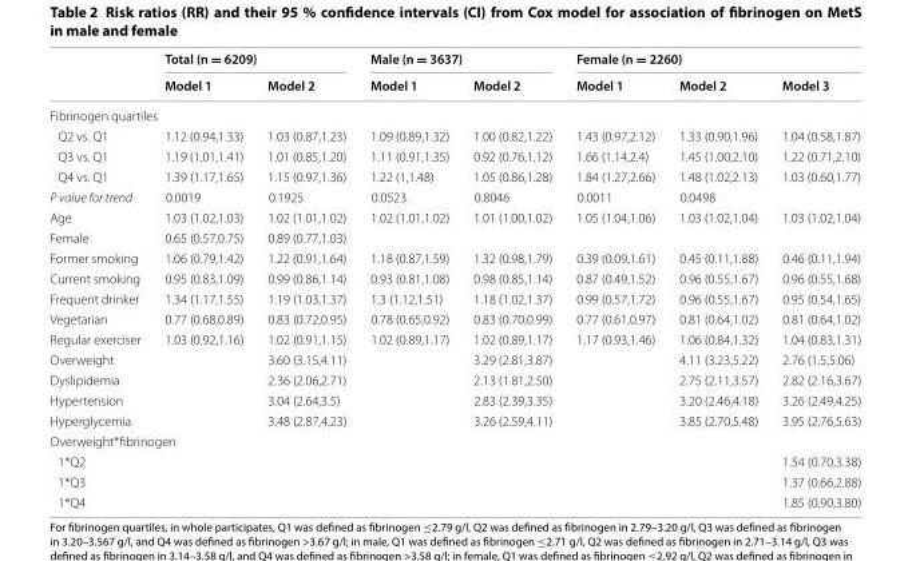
<table><thead><tr><td rowspan="2"></td><td colspan="2">Total (n = 6209)</td><td colspan="2">Male (n = 3637)</td><td colspan="3">Female (n = 2260)</td></tr><tr><td>Model 1</td><td>Model 2</td><td>Model 1</td><td>Model 2</td><td>Model 1</td><td>Model 2</td><td>Model 3</td></tr></thead><tbody><tr><td colspan="8">Fibrinogen quartiles</td></tr><tr><td>Q2 vs. Q1</td><td>1.12 (0.94,1.33)</td><td>1.03 (0.87,1.23)</td><td>1.09 (0.89,1.32)</td><td>1.00 (0.82,1.22)</td><td>1.43 (0.97,2.12)</td><td>1.33 (0.90,1.96)</td><td>1.04 (0.58,1.87)</td></tr><tr><td>Q3 vs. Q1</td><td>1.19 (1.01,1.41)</td><td>1.01 (0.85,1.20)</td><td>1.11 (0.91,1.35)</td><td>0.92 (0.76,1.12)</td><td>1.66 (1.14,2.4)</td><td>1.45 (1.00,2.10)</td><td>1.22 (0.71,2.10)</td></tr><tr><td>Q4 vs. Q1</td><td>1.39 (1.17,1.65)</td><td>1.15 (0.97,1.36)</td><td>1.22 (1,1.48)</td><td>1.05 (0.86,1.28)</td><td>1.84 (1.27,2.66)</td><td>1.48 (1.02,2.13)</td><td>1.03 (0.60,1.77)</td></tr><tr><td>P value for trend</td><td>0.0019</td><td>0.1925</td><td>0.0523</td><td>0.8046</td><td>0.0011</td><td>0.0498</td><td></td></tr><tr><td>Age</td><td>1.03 (1.02,1.03)</td><td>1.02 (1.01,1.02)</td><td>1.02 (1.01,1.02)</td><td>1.01 (1.00,1.02)</td><td>1.05 (1.04,1.06)</td><td>1.03 (1.02,1.04)</td><td>1.03 (1.02,1.04)</td></tr><tr><td>Female</td><td>0.65 (0.57,0.75)</td><td>0.89 (0.77,1.03)</td><td></td><td></td><td></td><td></td><td></td></tr><tr><td>Former smoking</td><td>1.06 (0.79,1.42)</td><td>1.22 (0.91,1.64)</td><td>1.18 (0.87,1.59)</td><td>1.32 (0.98,1.79)</td><td>0.39 (0.09,1.61)</td><td>0.45 (0.11,1.88)</td><td>0.46 (0.11,1.94)</td></tr><tr><td>Current smoking</td><td>0.95 (0.83,1.09)</td><td>0.99 (0.86,1.14)</td><td>0.93 (0.81,1.08)</td><td>0.98 (0.85,1.14)</td><td>0.87 (0.49,1.52)</td><td>0.96 (0.55,1.67)</td><td>0.96 (0.55,1.68)</td></tr><tr><td>Frequent drinker</td><td>1.34 (1.17,1.55)</td><td>1.19 (1.03,1.37)</td><td>1.3 (1.12,1.51)</td><td>1.18 (1.02,1.37)</td><td>0.99 (0.57,1.72)</td><td>0.96 (0.55,1.67)</td><td>0.95 (0.54,1.65)</td></tr><tr><td>Vegetarian</td><td>0.77 (0.68,0.89)</td><td>0.83 (0.72,0.95)</td><td>0.78 (0.65,0.92)</td><td>0.83 (0.70,0.99)</td><td>0.77 (0.61,0.97)</td><td>0.81 (0.64,1.02)</td><td>0.81 (0.64,1.02)</td></tr><tr><td>Regular exerciser</td><td>1.03 (0.92,1.16)</td><td>1.02 (0.91,1.15)</td><td>1.02 (0.89,1.17)</td><td>1.02 (0.89,1.17)</td><td>1.17 (0.93,1.46)</td><td>1.06 (0.84,1.32)</td><td>1.04 (0.83,1.31)</td></tr><tr><td>Overweight</td><td></td><td>3.60 (3.15,4.11)</td><td></td><td>3.29 (2.81,3.87)</td><td></td><td>4.11 (3.23,5.22)</td><td>2.76 (1.5,5.06)</td></tr><tr><td>Dyslipidemia</td><td></td><td>2.36 (2.06,2.71)</td><td></td><td>2.13 (1.81,2.50)</td><td></td><td>2.75 (2.11,3.57)</td><td>2.82 (2.16,3.67)</td></tr><tr><td>Hypertension</td><td></td><td>3.04 (2.64,3.5)</td><td></td><td>2.83 (2.39,3.35)</td><td></td><td>3.20 (2.46,4.18)</td><td>3.26 (2.49,4.25)</td></tr><tr><td colspan="2">Hyperglycemia</td><td>3.48 (2.87,4.23)</td><td></td><td>3.26 (2.59,4.11)</td><td></td><td>3.85 (2.70,5.48)</td><td>3.95 (2.76,5.63)</td></tr><tr><td colspan="8">Overweight*fibrinogen</td></tr><tr><td>1*Q2</td><td></td><td></td><td></td><td></td><td></td><td></td><td>1.54 (0.70,3.38)</td></tr><tr><td>1*Q3</td><td></td><td></td><td></td><td></td><td></td><td></td><td>1.37 (0.66,2.88)</td></tr><tr><td>1*Q4</td><td></td><td></td><td></td><td></td><td></td><td></td><td>1.85 (0.90,3.80)</td></tr></tbody></table>